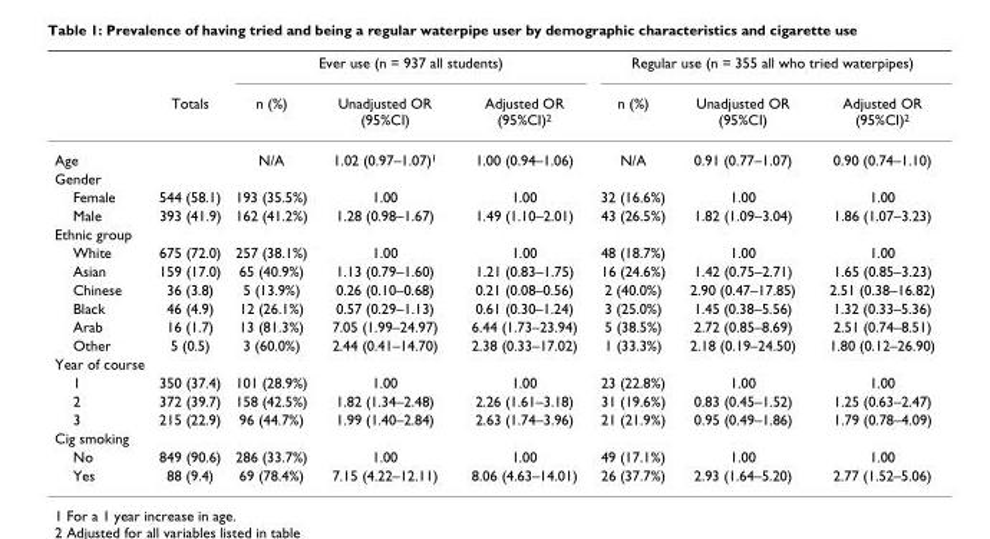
<table><thead><tr><td rowspan="2"></td><td rowspan="2">Totals</td><td colspan="3">Ever use (n = 937 all students)</td><td colspan="3">Regular use (n = 355 all who tried waterpipes)</td></tr><tr><td>n (%)</td><td>Unadjusted OR (95%CI)</td><td>Adjusted OR (95%CI)<sup>2</sup></td><td>n (%)</td><td>Unadjusted OR (95%CI)</td><td>Adjusted OR (95%CI)<sup>2</sup></td></tr></thead><tbody><tr><td>Age</td><td></td><td>N/A</td><td>1.02 (0.97–1.07)<sup>1</sup></td><td>1.00 (0.94–1.06)</td><td>N/A</td><td>0.91 (0.77–1.07)</td><td>0.90 (0.74–1.10)</td></tr><tr><td colspan="8">Gender</td></tr><tr><td>Female</td><td>544 (58.1)</td><td>193 (35.5%)</td><td>1.00</td><td>1.00</td><td>32 (16.6%)</td><td>1.00</td><td>1.00</td></tr><tr><td>Male</td><td>393 (41.9)</td><td>162 (41.2%)</td><td>1.28 (0.98–1.67)</td><td>1.49 (1.10–2.01)</td><td>43 (26.5%)</td><td>1.82 (1.09–3.04)</td><td>1.86 (1.07–3.23)</td></tr><tr><td colspan="8">Ethnic group</td></tr><tr><td>White</td><td>675 (72.0)</td><td>257 (38.1%)</td><td>1.00</td><td>1.00</td><td>48 (18.7%)</td><td>1.00</td><td>1.00</td></tr><tr><td>Asian</td><td>159 (17.0)</td><td>65 (40.9%)</td><td>1.13 (0.79–1.60)</td><td>1.21 (0.83–1.75)</td><td>16 (24.6%)</td><td>1.42 (0.75–2.71)</td><td>1.65 (0.85–3.23)</td></tr><tr><td>Chinese</td><td>36 (3.8)</td><td>5 (13.9%)</td><td>0.26 (0.10–0.68)</td><td>0.21 (0.08–0.56)</td><td>2 (40.0%)</td><td>2.90 (0.47–17.85)</td><td>2.51 (0.38–16.82)</td></tr><tr><td>Black</td><td>46 (4.9)</td><td>12 (26.1%)</td><td>0.57 (0.29–1.13)</td><td>0.61 (0.30–1.24)</td><td>3 (25.0%)</td><td>1.45 (0.38–5.56)</td><td>1.32 (0.33–5.36)</td></tr><tr><td>Arab</td><td>16 (1.7)</td><td>13 (81.3%)</td><td>7.05 (1.99–24.97)</td><td>6.44 (1.73–23.94)</td><td>5 (38.5%)</td><td>2.72 (0.85–8.69)</td><td>2.51 (0.74–8.51)</td></tr><tr><td>Other</td><td>5 (0.5)</td><td>3 (60.0%)</td><td>2.44 (0.41–14.70)</td><td>2.38 (0.33–17.02)</td><td>1 (33.3%)</td><td>2.18 (0.19–24.50)</td><td>1.80 (0.12–26.90)</td></tr><tr><td colspan="8">Year of course</td></tr><tr><td>1</td><td>350 (37.4)</td><td>101 (28.9%)</td><td>1.00</td><td>1.00</td><td>23 (22.8%)</td><td>1.00</td><td>1.00</td></tr><tr><td>2</td><td>372 (39.7)</td><td>158 (42.5%)</td><td>1.82 (1.34–2.48)</td><td>2.26 (1.61–3.18)</td><td>31 (19.6%)</td><td>0.83 (0.45–1.52)</td><td>1.25 (0.63–2.47)</td></tr><tr><td>3</td><td>215 (22.9)</td><td>96 (44.7%)</td><td>1.99 (1.40–2.84)</td><td>2.63 (1.74–3.96)</td><td>21 (21.9%)</td><td>0.95 (0.49–1.86)</td><td>1.79 (0.78–4.09)</td></tr><tr><td colspan="8">Cig smoking</td></tr><tr><td>No</td><td>849 (90.6)</td><td>286 (33.7%)</td><td>1.00</td><td>1.00</td><td>49 (17.1%)</td><td>1.00</td><td>1.00</td></tr><tr><td>Yes</td><td>88 (9.4)</td><td>69 (78.4%)</td><td>7.15 (4.22–12.11)</td><td>8.06 (4.63–14.01)</td><td>26 (37.7%)</td><td>2.93 (1.64–5.20)</td><td>2.77 (1.52–5.06)</td></tr></tbody></table>